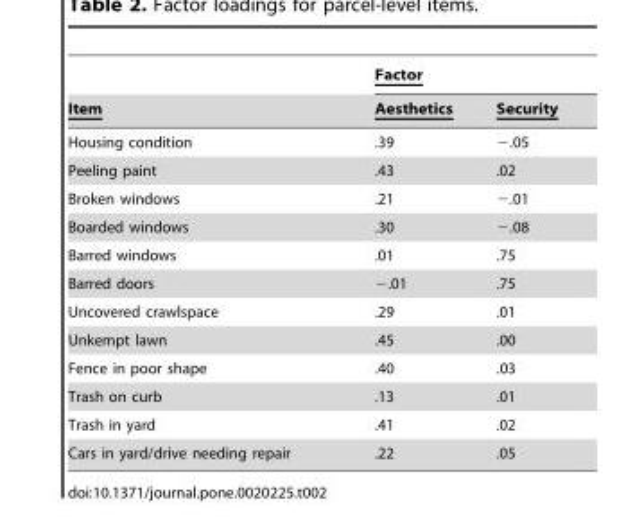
<table><thead><tr><td rowspan="2">Item</td><td colspan="2">Factor</td></tr><tr><td>Aesthetics</td><td>Security</td></tr></thead><tbody><tr><td>Housing condition</td><td>.39</td><td>−.05</td></tr><tr><td>Peeling paint</td><td>.43</td><td>.02</td></tr><tr><td>Broken windows</td><td>.21</td><td>−.01</td></tr><tr><td>Boarded windows</td><td>.30</td><td>−.08</td></tr><tr><td>Barred windows</td><td>.01</td><td>.75</td></tr><tr><td>Barred doors</td><td>−.01</td><td>.75</td></tr><tr><td>Uncovered crawlspace</td><td>.29</td><td>.01</td></tr><tr><td>Unkempt lawn</td><td>.45</td><td>.00</td></tr><tr><td>Fence in poor shape</td><td>.40</td><td>.03</td></tr><tr><td>Trash on curb</td><td>.13</td><td>.01</td></tr><tr><td>Trash in yard</td><td>.41</td><td>.02</td></tr><tr><td>Cars in yard/drive needing repair</td><td>.22</td><td>.05</td></tr></tbody></table>